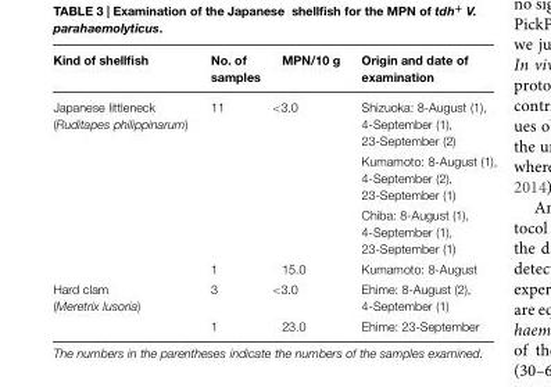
<table><thead><tr><td>Kind of shellfish</td><td>No. of samples</td><td>MPN/10 g</td><td>Origin and date of examination</td></tr></thead><tbody><tr><td rowspan="4">Japanese littleneck (Ruditapes philippinarum)</td><td>11</td><td>&lt;3.0</td><td>Shizuoka: 8-August (1), 4-September (1), 23-September (2)</td></tr><tr><td></td><td></td><td>Kumamoto: 8-August (1), 4-September (2), 23-September (1)</td></tr><tr><td></td><td></td><td>Chiba: 8-August (1), 4-September (1), 23-September (1)</td></tr><tr><td>1</td><td>15.0</td><td>Kumamoto: 8-August</td></tr><tr><td rowspan="2">Hard clam (Meretrix lusoria)</td><td>3</td><td>&lt;3.0</td><td>Ehime: 8-August (2), 4-September (1)</td></tr><tr><td>1</td><td>23.0</td><td>Ehime: 23-September</td></tr></tbody></table>